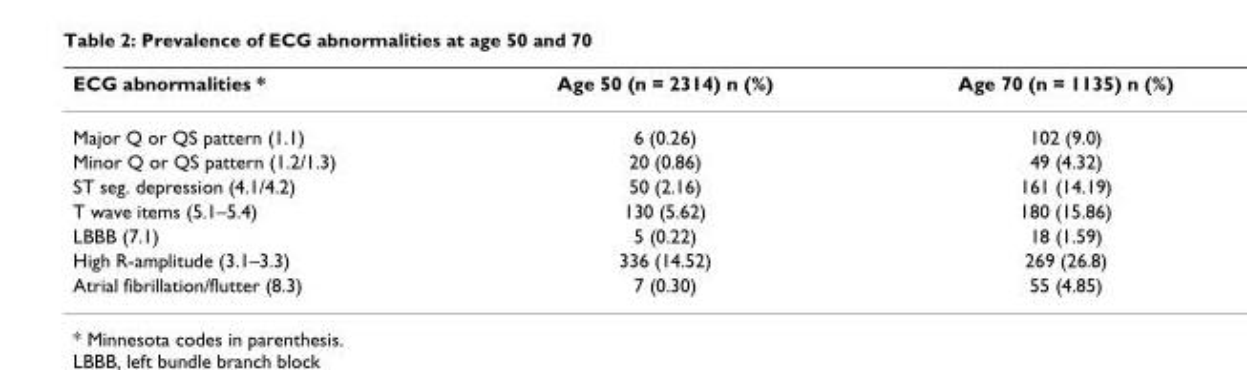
<table><thead><tr><td>ECG abnormalities *</td><td>Age 50 (n = 2314) n (%)</td><td>Age 70 (n = 1135) n (%)</td></tr></thead><tbody><tr><td>Major Q or QS pattern (1.1)</td><td>6 (0.26)</td><td>102 (9.0)</td></tr><tr><td>Minor Q or QS pattern (1.2/1.3)</td><td>20 (0.86)</td><td>49 (4.32)</td></tr><tr><td>ST seg. depression (4.1/4.2)</td><td>50 (2.16)</td><td>161 (14.19)</td></tr><tr><td>T wave items (5.1–5.4)</td><td>130 (5.62)</td><td>180 (15.86)</td></tr><tr><td>LBBB (7.1)</td><td>5 (0.22)</td><td>18 (1.59)</td></tr><tr><td>High R-amplitude (3.1–3.3)</td><td>336 (14.52)</td><td>269 (26.8)</td></tr><tr><td>Atrial fibrillation/flutter (8.3)</td><td>7 (0.30)</td><td>55 (4.85)</td></tr></tbody></table>